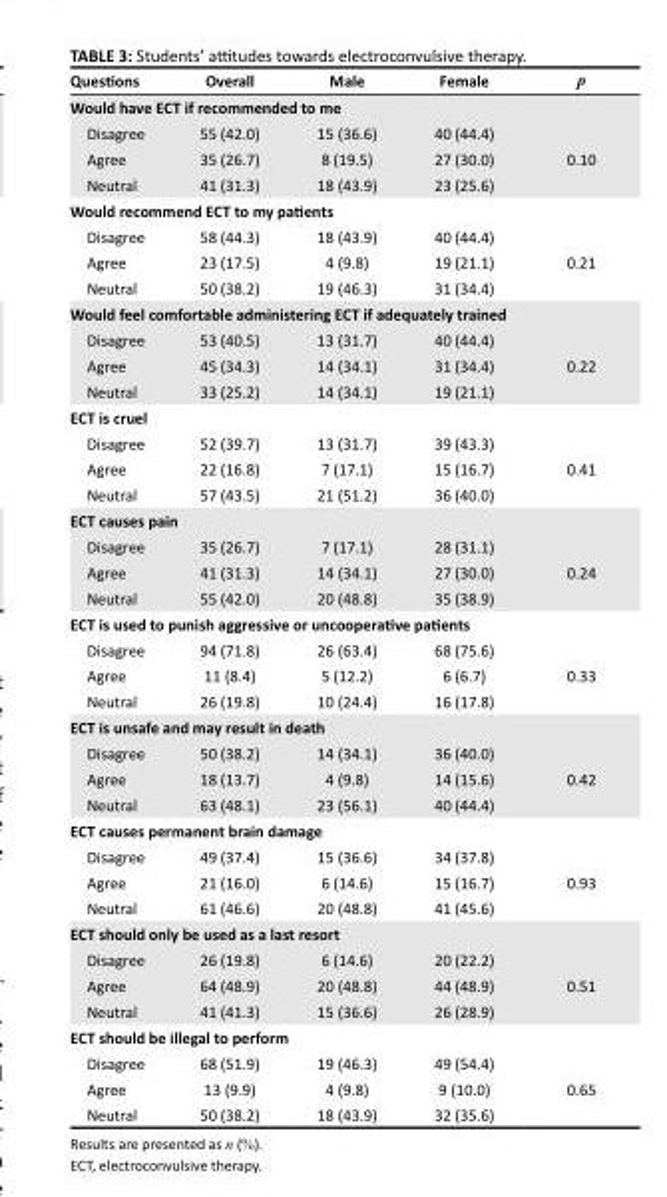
<table><thead><tr><td>Questions</td><td>Overall</td><td>Male</td><td>Female</td><td>p</td></tr></thead><tbody><tr><td colspan="5">Would have ECT if recommended to me</td></tr><tr><td>Disagree</td><td>55 (42.0)</td><td>15 (36.6)</td><td>40 (44.4)</td><td></td></tr><tr><td>Agree</td><td>35 (26.7)</td><td>8 (19.5)</td><td>27 (30.0)</td><td>0.10</td></tr><tr><td>Neutral</td><td>41 (31.3)</td><td>18 (43.9)</td><td>23 (25.6)</td><td></td></tr><tr><td colspan="5">Would recommend ECT to my patients</td></tr><tr><td>Disagree</td><td>58 (44.3)</td><td>18 (43.9)</td><td>40 (44.4)</td><td></td></tr><tr><td>Agree</td><td>23 (17.5)</td><td>4 (9.8)</td><td>19 (21.1)</td><td>0.21</td></tr><tr><td>Neutral</td><td>50 (38.2)</td><td>19 (46.3)</td><td>31 (34.4)</td><td></td></tr><tr><td colspan="5">Would feel comfortable administering ECT if adequately trained</td></tr><tr><td>Disagree</td><td>53 (40.5)</td><td>13 (31.7)</td><td>40 (44.4)</td><td></td></tr><tr><td>Agree</td><td>45 (34.3)</td><td>14 (34.1)</td><td>31 (34.4)</td><td>0.22</td></tr><tr><td>Neutral</td><td>33 (25.2)</td><td>14 (34.1)</td><td>19 (21.1)</td><td></td></tr><tr><td colspan="5">ECT is cruel</td></tr><tr><td>Disagree</td><td>52 (39.7)</td><td>13 (31.7)</td><td>39 (43.3)</td><td></td></tr><tr><td>Agree</td><td>22 (16.8)</td><td>7 (17.1)</td><td>15 (16.7)</td><td>0.41</td></tr><tr><td>Neutral</td><td>57 (43.5)</td><td>21 (51.2)</td><td>36 (40.0)</td><td></td></tr><tr><td colspan="5">ECT causes pain</td></tr><tr><td>Disagree</td><td>35 (26.7)</td><td>7 (17.1)</td><td>28 (31.1)</td><td></td></tr><tr><td>Agree</td><td>41 (31.3)</td><td>14 (34.1)</td><td>27 (30.0)</td><td>0.24</td></tr><tr><td>Neutral</td><td>55 (42.0)</td><td>20 (48.8)</td><td>35 (38.9)</td><td></td></tr><tr><td colspan="5">ECT is used to punish aggressive or uncooperative patients</td></tr><tr><td>Disagree</td><td>94 (71.8)</td><td>26 (63.4)</td><td>68 (75.6)</td><td></td></tr><tr><td>Agree</td><td>11 (8.4)</td><td>5 (12.2)</td><td>6 (6.7)</td><td>0.33</td></tr><tr><td>Neutral</td><td>26 (19.8)</td><td>10 (24.4)</td><td>16 (17.8)</td><td></td></tr><tr><td colspan="5">ECT is unsafe and may result in death</td></tr><tr><td>Disagree</td><td>50 (38.2)</td><td>14 (34.1)</td><td>36 (40.0)</td><td></td></tr><tr><td>Agree</td><td>18 (13.7)</td><td>4 (9.8)</td><td>14 (15.6)</td><td>0.42</td></tr><tr><td>Neutral</td><td>63 (48.1)</td><td>23 (56.1)</td><td>40 (44.4)</td><td></td></tr><tr><td colspan="5">ECT causes permanent brain damage</td></tr><tr><td>Disagree</td><td>49 (37.4)</td><td>15 (36.6)</td><td>34 (37.8)</td><td></td></tr><tr><td>Agree</td><td>21 (16.0)</td><td>6 (14.6)</td><td>15 (16.7)</td><td>0.93</td></tr><tr><td>Neutral</td><td>61 (46.6)</td><td>20 (48.8)</td><td>41 (45.6)</td><td></td></tr><tr><td colspan="5">ECT should only be used as a last resort</td></tr><tr><td>Disagree</td><td>26 (19.8)</td><td>6 (14.6)</td><td>20 (22.2)</td><td></td></tr><tr><td>Agree</td><td>64 (48.9)</td><td>20 (48.8)</td><td>44 (48.9)</td><td>0.51</td></tr><tr><td>Neutral</td><td>41 (41.3)</td><td>15 (36.6)</td><td>26 (28.9)</td><td></td></tr><tr><td colspan="5">ECT should be illegal to perform</td></tr><tr><td>Disagree</td><td>68 (51.9)</td><td>19 (46.3)</td><td>49 (54.4)</td><td></td></tr><tr><td>Agree</td><td>13 (9.9)</td><td>4 (9.8)</td><td>9 (10.0)</td><td>0.65</td></tr><tr><td>Neutral</td><td>50 (38.2)</td><td>18 (43.9)</td><td>32 (35.6)</td><td></td></tr></tbody></table>